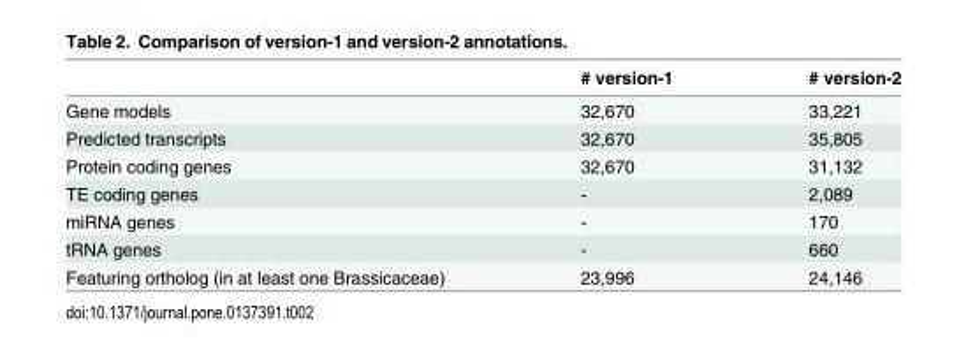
<table><thead><tr><td></td><td># version-1</td><td># version-2</td></tr></thead><tbody><tr><td>Gene models</td><td>32,670</td><td>33,221</td></tr><tr><td>Predicted transcripts</td><td>32,670</td><td>35,805</td></tr><tr><td>Protein coding genes</td><td>32,670</td><td>31,132</td></tr><tr><td>TE coding genes</td><td>-</td><td>2,089</td></tr><tr><td>miRNA genes</td><td>-</td><td>170</td></tr><tr><td>tRNA genes</td><td>-</td><td>660</td></tr><tr><td>Featuring ortholog (in at least one Brassicaceae)</td><td>23,996</td><td>24,146</td></tr></tbody></table>